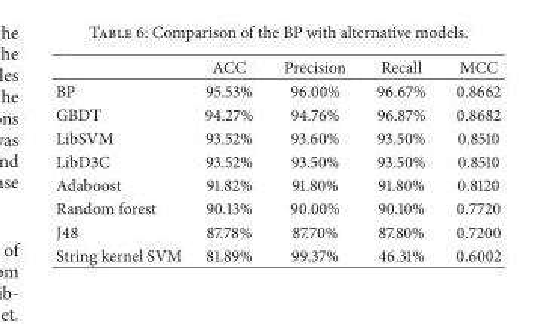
<table><thead><tr><td></td><td>ACC</td><td>Precision</td><td>Recall</td><td>MCC</td></tr></thead><tbody><tr><td>BP</td><td>95.53%</td><td>96.00%</td><td>96.67%</td><td>0.8662</td></tr><tr><td>GBDT</td><td>94.27%</td><td>94.76%</td><td>96.87%</td><td>0.8682</td></tr><tr><td>LibSVM</td><td>93.52%</td><td>93.60%</td><td>93.50%</td><td>0.8510</td></tr><tr><td>LibD3C</td><td>93.52%</td><td>93.50%</td><td>93.50%</td><td>0.8510</td></tr><tr><td>Adaboost</td><td>91.82%</td><td>91.80%</td><td>91.80%</td><td>0.8120</td></tr><tr><td>Random forest</td><td>90.13%</td><td>90.00%</td><td>90.10%</td><td>0.7720</td></tr><tr><td>J48</td><td>87.78%</td><td>87.70%</td><td>87.80%</td><td>0.7200</td></tr><tr><td>String kernel SVM</td><td>81.89%</td><td>99.37%</td><td>46.31%</td><td>0.6002</td></tr></tbody></table>